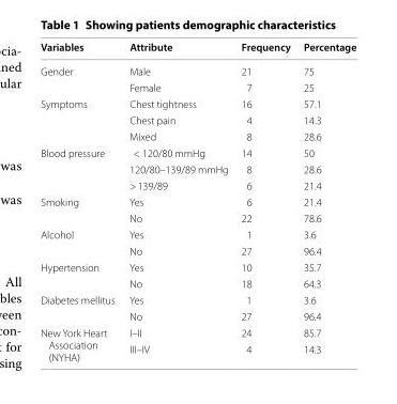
<table><thead><tr><td>Variables</td><td>Attribute</td><td>Frequency</td><td>Percentage</td></tr></thead><tbody><tr><td rowspan="2">Gender</td><td>Male</td><td>21</td><td>75</td></tr><tr><td>Female</td><td>7</td><td>25</td></tr><tr><td rowspan="3">Symptoms</td><td>Chest tightness</td><td>16</td><td>57.1</td></tr><tr><td>Chest pain</td><td>4</td><td>14.3</td></tr><tr><td>Mixed</td><td>8</td><td>28.6</td></tr><tr><td rowspan="3">Blood pressure</td><td>&lt; 120/80 mmHg</td><td>14</td><td>50</td></tr><tr><td>120/80–139/89 mmHg</td><td>8</td><td>28.6</td></tr><tr><td>&gt; 139/89</td><td>6</td><td>21.4</td></tr><tr><td rowspan="2">Smoking</td><td>Yes</td><td>6</td><td>21.4</td></tr><tr><td>No</td><td>22</td><td>78.6</td></tr><tr><td rowspan="2">Alcohol</td><td>Yes</td><td>1</td><td>3.6</td></tr><tr><td>No</td><td>27</td><td>96.4</td></tr><tr><td rowspan="2">Hypertension</td><td>Yes</td><td>10</td><td>35.7</td></tr><tr><td>No</td><td>18</td><td>64.3</td></tr><tr><td rowspan="2">Diabetes mellitus</td><td>Yes</td><td>1</td><td>3.6</td></tr><tr><td>No</td><td>27</td><td>96.4</td></tr><tr><td rowspan="2">New York Heart Association (NYHA)</td><td>I–II</td><td>24</td><td>85.7</td></tr><tr><td>III–IV</td><td>4</td><td>14.3</td></tr></tbody></table>